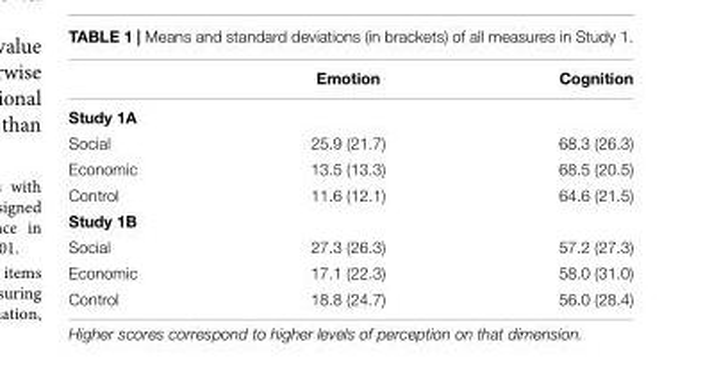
<table><thead><tr><td></td><td>Emotion</td><td>Cognition</td></tr></thead><tbody><tr><td colspan="3">Study 1A</td></tr><tr><td>Social</td><td>25.9 (21.7)</td><td>68.3 (26.3)</td></tr><tr><td>Economic</td><td>13.5 (13.3)</td><td>68.5 (20.5)</td></tr><tr><td>Control</td><td>11.6 (12.1)</td><td>64.6 (21.5)</td></tr><tr><td colspan="3">Study 1B</td></tr><tr><td>Social</td><td>27.3 (26.3)</td><td>57.2 (27.3)</td></tr><tr><td>Economic</td><td>17.1 (22.3)</td><td>58.0 (31.0)</td></tr><tr><td>Control</td><td>18.8 (24.7)</td><td>56.0 (28.4)</td></tr></tbody></table>